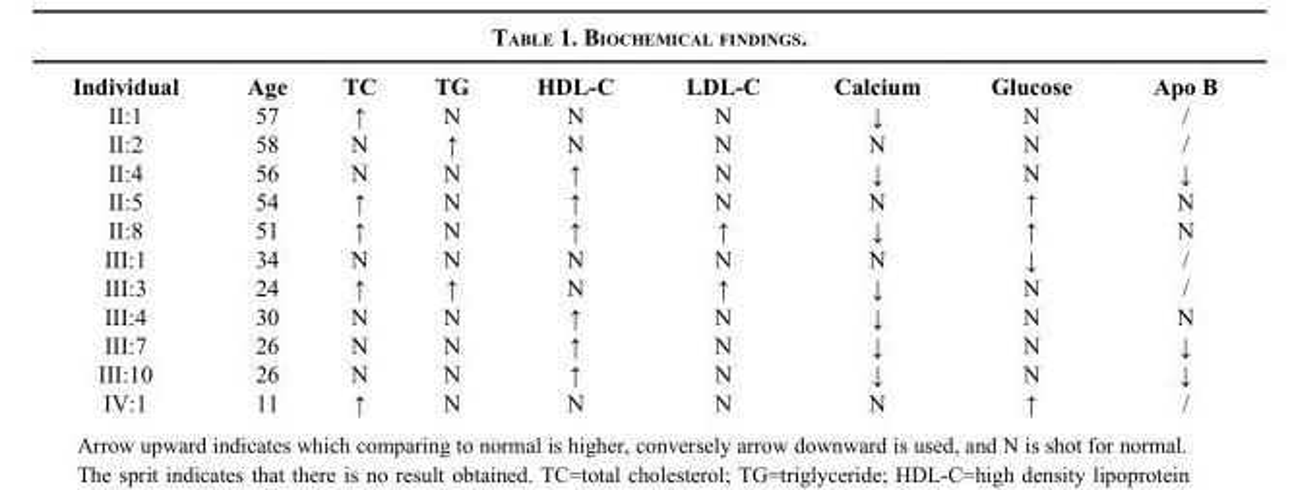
<table><thead><tr><td>Individual</td><td>Age</td><td>TC</td><td>TG</td><td>HDL-C</td><td>LDL-C</td><td>Calcium</td><td>Glucose</td><td>Apo B</td></tr></thead><tbody><tr><td>II:1</td><td>57</td><td>↑</td><td>N</td><td>N</td><td>N</td><td>↓</td><td>N</td><td>/</td></tr><tr><td>II:2</td><td>58</td><td>N</td><td>↑</td><td>N</td><td>N</td><td>N</td><td>N</td><td>/</td></tr><tr><td>II:4</td><td>56</td><td>N</td><td>N</td><td>↑</td><td>N</td><td>↓</td><td>N</td><td>↓</td></tr><tr><td>II:5</td><td>54</td><td>↑</td><td>N</td><td>↑</td><td>N</td><td>N</td><td>↑</td><td>N</td></tr><tr><td>II:8</td><td>51</td><td>↑</td><td>N</td><td>↑</td><td>↑</td><td>↓</td><td>↑</td><td>N</td></tr><tr><td>III:1</td><td>34</td><td>N</td><td>N</td><td>N</td><td>N</td><td>N</td><td>↓</td><td>/</td></tr><tr><td>III:3</td><td>24</td><td>↑</td><td>↑</td><td>N</td><td>↑</td><td>↓</td><td>N</td><td>/</td></tr><tr><td>III:4</td><td>30</td><td>N</td><td>N</td><td>↑</td><td>N</td><td>↓</td><td>N</td><td>N</td></tr><tr><td>III:7</td><td>26</td><td>N</td><td>N</td><td>↑</td><td>N</td><td>↓</td><td>N</td><td>↓</td></tr><tr><td>III:10</td><td>26</td><td>N</td><td>N</td><td>↑</td><td>N</td><td>↓</td><td>N</td><td>↓</td></tr><tr><td>IV:1</td><td>11</td><td>↑</td><td>N</td><td>N</td><td>N</td><td>N</td><td>↑</td><td>/</td></tr></tbody></table>